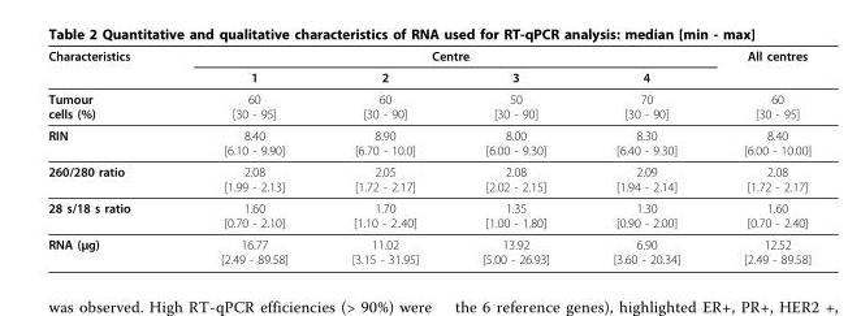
<table><thead><tr><td rowspan="2">Characteristics</td><td colspan="4">Centre</td><td rowspan="2">All centres</td></tr><tr><td>1</td><td>2</td><td>3</td><td>4</td></tr></thead><tbody><tr><td>Tumour cells (%)</td><td>60 [30 - 95]</td><td>60 [30 - 90]</td><td>50 [30 - 90]</td><td>70 [30 - 90]</td><td>60 [30 - 95]</td></tr><tr><td>RIN</td><td>8.40 [6.10 - 9.90]</td><td>8.90 [6.70 - 10.0]</td><td>8.00 [6.00 - 9.30]</td><td>8.30 [6.40 - 9.30]</td><td>8.40 [6.00 - 10.00]</td></tr><tr><td>260/280 ratio</td><td>2.08 [1.99 - 2.13]</td><td>2.05 [1.72 - 2.17]</td><td>2.08 [2.02 - 2.15]</td><td>2.09 [1.94 - 2.14]</td><td>2.08 [1.72 - 2.17]</td></tr><tr><td>28 s/18 s ratio</td><td>1.60 [0.70 - 2.10]</td><td>1.70 [1.10 - 2..40]</td><td>1.35 [1.00 - 1.80]</td><td>1.30 [0.90 - 2.00]</td><td>1.60 [0.70 - 2.40]</td></tr><tr><td>RNA (μg)</td><td>16.77 [2.49 - 89.58]</td><td>11.02 [3.15 - 31.95]</td><td>13.92 [5.00 - 26.93]</td><td>6.90 [3.60 - 20.34]</td><td>12.52 [2.49 - 89.58]</td></tr></tbody></table>